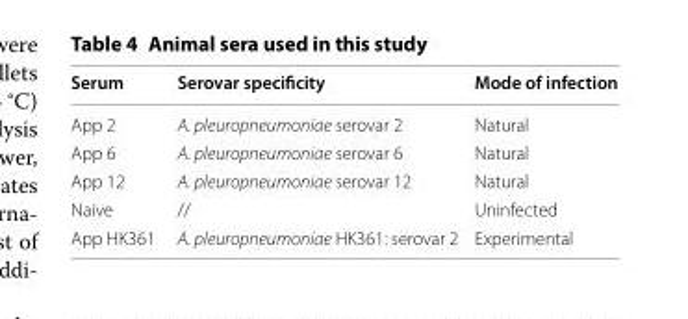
<table><thead><tr><td>Serum</td><td>Serovar specificity</td><td>Mode of infection</td></tr></thead><tbody><tr><td>App 2</td><td>A. pleuropneumoniae serovar 2</td><td>Natural</td></tr><tr><td>App 6</td><td>A. pleuropneumoniae serovar 6</td><td>Natural</td></tr><tr><td>App 12</td><td>A. pleuropneumoniae serovar 12</td><td>Natural</td></tr><tr><td>Naive</td><td>//</td><td>Uninfected</td></tr><tr><td>App HK361</td><td>A. pleuropneumoniae HK361: serovar 2</td><td>Experimental</td></tr></tbody></table>